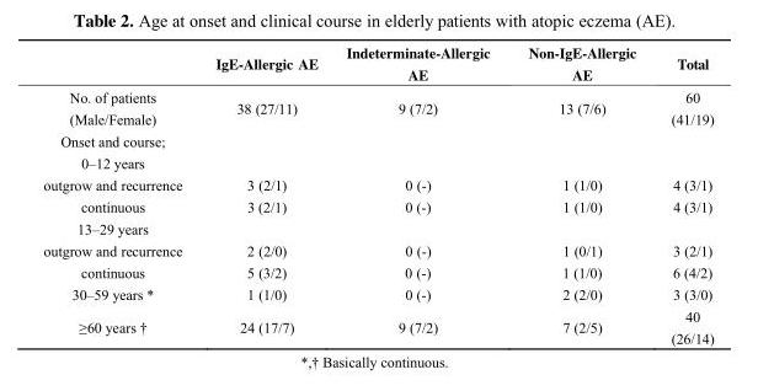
<table><thead><tr><td></td><td>IgE-Allergic AE</td><td>Indeterminate-Allergic AE</td><td>Non-IgE-Allergic AE</td><td>Total</td></tr></thead><tbody><tr><td>No. of patients (Male/Female)</td><td>38 (27/11)</td><td>9 (7/2)</td><td>13 (7/6)</td><td>60 (41/19)</td></tr><tr><td colspan="5">Onset and course;</td></tr><tr><td colspan="5">0–12 years</td></tr><tr><td>outgrow and recurrence</td><td>3 (2/1)</td><td>0 (-)</td><td>1 (1/0)</td><td>4 (3/1)</td></tr><tr><td>continuous</td><td>3 (2/1)</td><td>0 (-)</td><td>1 (1/0)</td><td>4 (3/1)</td></tr><tr><td colspan="5">13–29 years</td></tr><tr><td>outgrow and recurrence</td><td>2 (2/0)</td><td>0 (-)</td><td>1 (0/1)</td><td>3 (2/1)</td></tr><tr><td>continuous</td><td>5 (3/2)</td><td>0 (-)</td><td>1 (1/0)</td><td>6 (4/2)</td></tr><tr><td>30–59 years *</td><td>1 (1/0)</td><td>0 (-)</td><td>2 (2/0)</td><td>3 (3/0)</td></tr><tr><td>≥60 years †</td><td>24 (17/7)</td><td>9 (7/2)</td><td>7 (2/5)</td><td>40 (26/14)</td></tr></tbody></table>